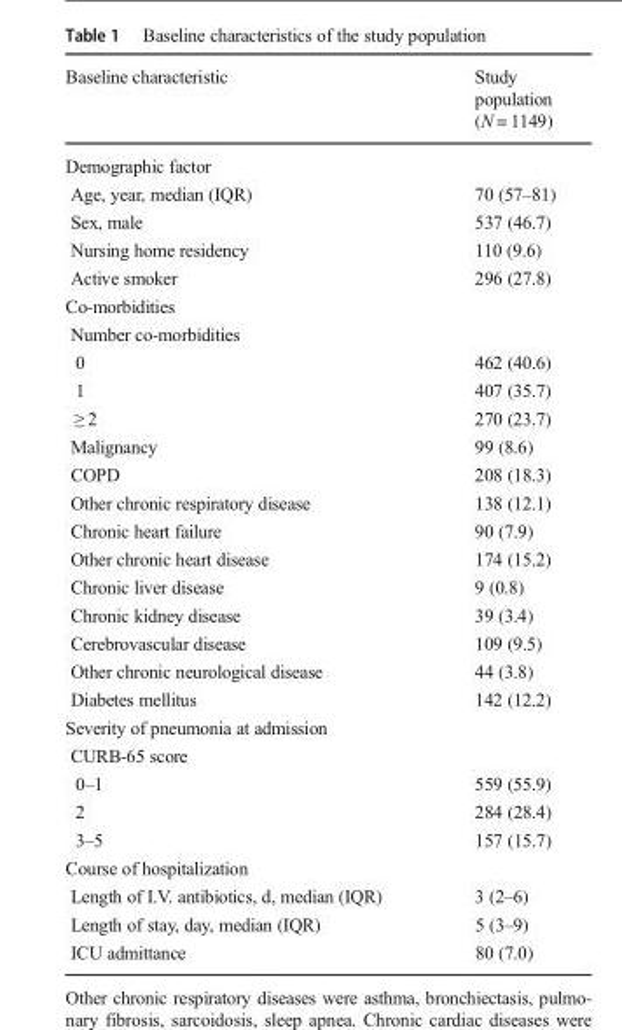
<table><thead><tr><td>Baseline characteristic</td><td>Study population (N = 1149)</td></tr></thead><tbody><tr><td colspan="2">Demographic factor</td></tr><tr><td>Age, year, median (IQR)</td><td>70 (57–81)</td></tr><tr><td>Sex, male</td><td>537 (46.7)</td></tr><tr><td>Nursing home residency</td><td>110 (9.6)</td></tr><tr><td>Active smoker</td><td>296 (27.8)</td></tr><tr><td colspan="2">Co-morbidities</td></tr><tr><td colspan="2">Number co-morbidities</td></tr><tr><td>0</td><td>462 (40.6)</td></tr><tr><td>1</td><td>407 (35.7)</td></tr><tr><td>≥ 2</td><td>270 (23.7)</td></tr><tr><td>Malignancy</td><td>99 (8.6)</td></tr><tr><td>COPD</td><td>208 (18.3)</td></tr><tr><td>Other chronic respiratory disease</td><td>138 (12.1)</td></tr><tr><td>Chronic heart failure</td><td>90 (7.9)</td></tr><tr><td>Other chronic heart disease</td><td>174 (15.2)</td></tr><tr><td>Chronic liver disease</td><td>9 (0.8)</td></tr><tr><td>Chronic kidney disease</td><td>39 (3.4)</td></tr><tr><td>Cerebrovascular disease</td><td>109 (9.5)</td></tr><tr><td>Other chronic neurological disease</td><td>44 (3.8)</td></tr><tr><td>Diabetes mellitus</td><td>142 (12.2)</td></tr><tr><td colspan="2">Severity of pneumonia at admission</td></tr><tr><td colspan="2">CURB-65 score</td></tr><tr><td>0–1</td><td>559 (55.9)</td></tr><tr><td>2</td><td>284 (28.4)</td></tr><tr><td>3–5</td><td>157 (15.7)</td></tr><tr><td colspan="2">Course of hospitalization</td></tr><tr><td>Length of I.V. antibiotics, d, median (IQR)</td><td>3 (2–6)</td></tr><tr><td>Length of stay, day, median (IQR)</td><td>5 (3–9)</td></tr><tr><td>ICU admittance</td><td>80 (7.0)</td></tr></tbody></table>